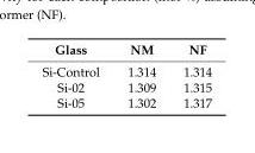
<table><thead><tr><td>Glass</td><td>NM</td><td>NF</td></tr></thead><tbody><tr><td>Si-Control</td><td>1.314</td><td>1.314</td></tr><tr><td>Si-02</td><td>1.309</td><td>1.315</td></tr><tr><td>Si-05</td><td>1.302</td><td>1.317</td></tr></tbody></table>